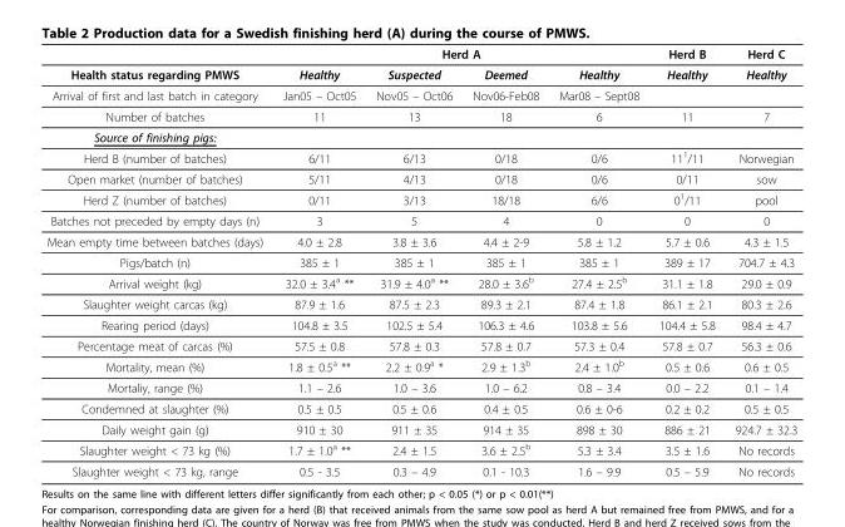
<table><thead><tr><td rowspan="2">Health status regarding PMWS</td><td colspan="4">Herd A</td><td rowspan="2">Herd B Healthy</td><td rowspan="2">Herd C Healthy</td></tr><tr><td>Healthy</td><td>Suspected</td><td>Deemed</td><td>Healthy</td></tr></thead><tbody><tr><td>Arrival of first and last batch in category</td><td>Jan05 – Oct05</td><td>Nov05 – Oct06</td><td>Nov06-Feb08</td><td>Mar08 – Sept08</td><td></td><td></td></tr><tr><td>Number of batches</td><td>11</td><td>13</td><td>18</td><td>6</td><td>11</td><td>7</td></tr><tr><td colspan="7">Source of finishing pigs:</td></tr><tr><td>Herd B (number of batches)</td><td>6/11</td><td>6/13</td><td>0/18</td><td>0/6</td><td>11<sup>1</sup>/11</td><td>Norwegian</td></tr><tr><td>Open market (number of batches)</td><td>5/11</td><td>4/13</td><td>0/18</td><td>0/6</td><td>0/11</td><td>sow</td></tr><tr><td>Herd Z (number of batches)</td><td>0/11</td><td>3/13</td><td>18/18</td><td>6/6</td><td>0<sup>1</sup>/11</td><td>pool</td></tr><tr><td>Batches not preceded by empty days (n)</td><td>3</td><td>5</td><td>4</td><td>0</td><td>0</td><td>0</td></tr><tr><td>Mean empty time between batches (days)</td><td>4.0 ± 2.8</td><td>3.8 ± 3.6</td><td>4.4 ± 2-9</td><td>5.8 ± 1.2</td><td>5.7 ± 0.6</td><td>4.3 ± 1.5</td></tr><tr><td>Pigs/batch (n)</td><td>385 ± 1</td><td>385 ± 1</td><td>385 ± 1</td><td>385 ± 1</td><td>389 ± 17</td><td>704.7 ± 4.3</td></tr><tr><td>Arrival weight (kg)</td><td>32.0 ± 3.4<sup>a</sup> **</td><td>31.9 ± 4.0<sup>a</sup> **</td><td>28.0 ± 3.6<sup>b</sup></td><td>27.4 ± 2.5<sup>b</sup></td><td>31.1 ± 1.8</td><td>29.0 ± 0.9</td></tr><tr><td>Slaughter weight carcas (kg)</td><td>87.9 ± 1.6</td><td>87.5 ± 2.3</td><td>89.3 ± 2.1</td><td>87.4 ± 1.8</td><td>86.1 ± 2.1</td><td>80.3 ± 2.6</td></tr><tr><td>Rearing period (days)</td><td>104.8 ± 3.5</td><td>102.5 ± 5.4</td><td>106.3 ± 4.6</td><td>103.8 ± 5.6</td><td>104.4 ± 5.8</td><td>98.4 ± 4.7</td></tr><tr><td>Percentage meat of carcas (%)</td><td>57.5 ± 0.8</td><td>57.8 ± 0.3</td><td>57.8 ± 0.7</td><td>57.3 ± 0.4</td><td>57.8 ± 0.7</td><td>56.3 ± 0.6</td></tr><tr><td>Mortality, mean (%)</td><td>1.8 ± 0.5<sup>a</sup> **</td><td>2.2 ± 0.9<sup>a</sup> *</td><td>2.9 ± 1.3<sup>b</sup></td><td>2.4 ± 1.0<sup>b</sup></td><td>0.5 ± 0.6</td><td>0.6 ± 0.5</td></tr><tr><td>Mortaliy, range (%)</td><td>1.1 – 2.6</td><td>1.0 – 3.6</td><td>1.0 – 6.2</td><td>0.8 – 3.4</td><td>0.0 – 2.2</td><td>0.1 – 1.4</td></tr><tr><td>Condemned at slaughter (%)</td><td>0.5 ± 0.5</td><td>0.5 ± 0.6</td><td>0.4 ± 0.5</td><td>0.6 ± 0-6</td><td>0.2 ± 0.2</td><td>0.5 ± 0.5</td></tr><tr><td>Daily weight gain (g)</td><td>910 ± 30</td><td>911 ± 35</td><td>914 ± 35</td><td>898 ± 30</td><td>886 ± 21</td><td>924.7 ± 32.3</td></tr><tr><td>Slaughter weight &lt; 73 kg (%)</td><td>1.7 ± 1.0a **</td><td>2.4 ± 1.5</td><td>3.6 ± 2.5b</td><td>5.3 ± 3.4</td><td>3.5 ± 1.6</td><td>No records</td></tr><tr><td>Slaughter weight &lt; 73 kg, range</td><td>0.5 - 3.5</td><td>0.3 – 4.9</td><td>0.1 - 10.3</td><td>1.6 – 9.9</td><td>0.5 – 5.9</td><td>No records</td></tr></tbody></table>